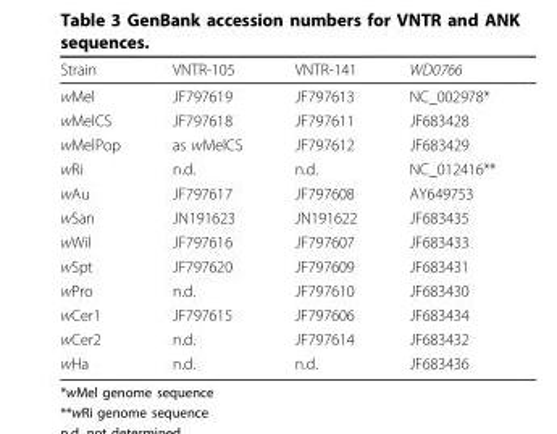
<table><thead><tr><td>Strain</td><td>VNTR-105</td><td>VNTR-141</td><td>WD0766</td></tr></thead><tbody><tr><td>wMel</td><td>JF797619</td><td>JF797613</td><td>NC_002978*</td></tr><tr><td>wMelCS</td><td>JF797618</td><td>JF797611</td><td>JF683428</td></tr><tr><td>wMelPop</td><td>as wMelCS</td><td>JF797612</td><td>JF683429</td></tr><tr><td>wRi</td><td>n.d.</td><td>n.d.</td><td>NC_012416**</td></tr><tr><td>wAu</td><td>JF797617</td><td>JF797608</td><td>AY649753</td></tr><tr><td>wSan</td><td>JN191623</td><td>JN191622</td><td>JF683435</td></tr><tr><td>wWil</td><td>JF797616</td><td>JF797607</td><td>JF683433</td></tr><tr><td>wSpt</td><td>JF797620</td><td>JF797609</td><td>JF683431</td></tr><tr><td>wPro</td><td>n.d.</td><td>JF797610</td><td>JF683430</td></tr><tr><td>wCer1</td><td>JF797615</td><td>JF797606</td><td>JF683434</td></tr><tr><td>wCer2</td><td>n.d.</td><td>JF797614</td><td>JF683432</td></tr><tr><td>wHa</td><td>n.d.</td><td>n.d.</td><td>JF683436</td></tr></tbody></table>